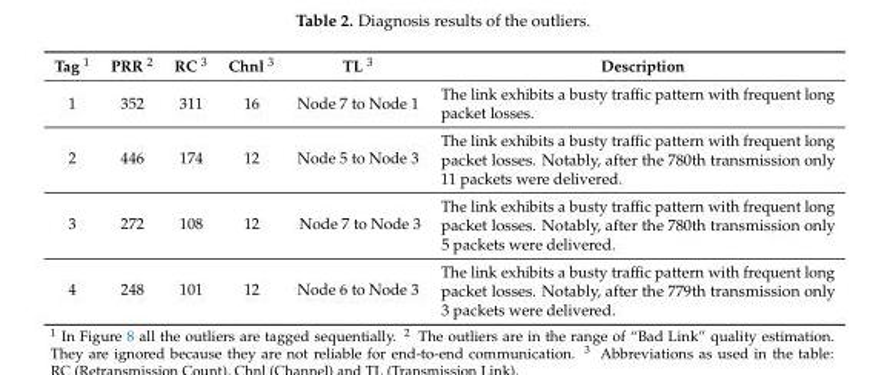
<table><thead><tr><td>Tag <sup>1</sup></td><td>PRR <sup>2</sup></td><td>RC <sup>3</sup></td><td>Chnl <sup>3</sup></td><td>TL <sup>3</sup></td><td>Description</td></tr></thead><tbody><tr><td>1</td><td>352</td><td>311</td><td>16</td><td>Node 7 to Node 1</td><td>The link exhibits a busty traffic pattern with frequent long packet losses.</td></tr><tr><td>2</td><td>446</td><td>174</td><td>12</td><td>Node 5 to Node 3</td><td>The link exhibits a busty traffic pattern with frequent long packet losses. Notably, after the 780th transmission only 11 packets were delivered.</td></tr><tr><td>3</td><td>272</td><td>108</td><td>12</td><td>Node 7 to Node 3</td><td>The link exhibits a busty traffic pattern with frequent long packet losses. Notably, after the 780th transmission only 5 packets were delivered.</td></tr><tr><td>4</td><td>248</td><td>101</td><td>12</td><td>Node 6 to Node 3</td><td>The link exhibits a busty traffic pattern with frequent long packet losses. Notably, after the 779th transmission only 3 packets were delivered.</td></tr></tbody></table>